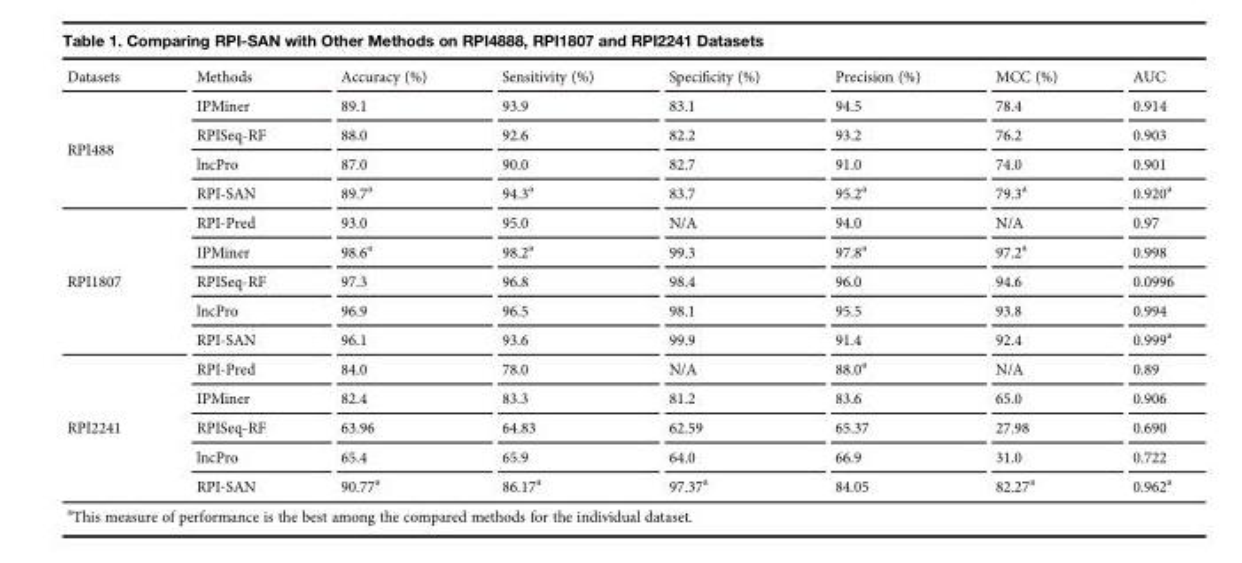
<table><thead><tr><td>Datasets</td><td>Methods</td><td>Accuracy (%)</td><td>Sensitivity (%)</td><td>Specificity (%)</td><td>Precision (%)</td><td>MCC (%)</td><td>AUC</td></tr></thead><tbody><tr><td rowspan="4">RPI488</td><td>IPMiner</td><td>89.1</td><td>93.9</td><td>83.1</td><td>94.5</td><td>78.4</td><td>0.914</td></tr><tr><td>RPISeq-RF</td><td>88.0</td><td>92.6</td><td>82.2</td><td>93.2</td><td>76.2</td><td>0.903</td></tr><tr><td>lncPro</td><td>87.0</td><td>90.0</td><td>82.7</td><td>91.0</td><td>74.0</td><td>0.901</td></tr><tr><td>RPI-SAN</td><td>89.7<sup>a</sup></td><td>94.3<sup>a</sup></td><td>83.7</td><td>95.2<sup>a</sup></td><td>79.3<sup>a</sup></td><td>0.920<sup>a</sup></td></tr><tr><td rowspan="5">RPI1807</td><td>RPI-Pred</td><td>93.0</td><td>95.0</td><td>N/A</td><td>94.0</td><td>N/A</td><td>0.97</td></tr><tr><td>IPMiner</td><td>98.6<sup>a</sup></td><td>98.2<sup>a</sup></td><td>99.3</td><td>97.8<sup>a</sup></td><td>97.2<sup>a</sup></td><td>0.998</td></tr><tr><td>RPISeq-RF</td><td>97.3</td><td>96.8</td><td>98.4</td><td>96.0</td><td>94.6</td><td>0.0996</td></tr><tr><td>lncPro</td><td>96.9</td><td>96.5</td><td>98.1</td><td>95.5</td><td>93.8</td><td>0.994</td></tr><tr><td>RPI-SAN</td><td>96.1</td><td>93.6</td><td>99.9</td><td>91.4</td><td>92.4</td><td>0.999<sup>a</sup></td></tr><tr><td rowspan="5">RPI2241</td><td>RPI-Pred</td><td>84.0</td><td>78.0</td><td>N/A</td><td>88.0<sup>a</sup></td><td>N/A</td><td>0.89</td></tr><tr><td>IPMiner</td><td>82.4</td><td>83.3</td><td>81.2</td><td>83.6</td><td>65.0</td><td>0.906</td></tr><tr><td>RPISeq-RF</td><td>63.96</td><td>64.83</td><td>62.59</td><td>65.37</td><td>27.98</td><td>0.690</td></tr><tr><td>lncPro</td><td>65.4</td><td>65.9</td><td>64.0</td><td>66.9</td><td>31.0</td><td>0.722</td></tr><tr><td>RPI-SAN</td><td>90.77<sup>a</sup></td><td>86.17<sup>a</sup></td><td>97.37<sup>a</sup></td><td>84.05</td><td>82.27<sup>a</sup></td><td>0.962<sup>a</sup></td></tr></tbody></table>